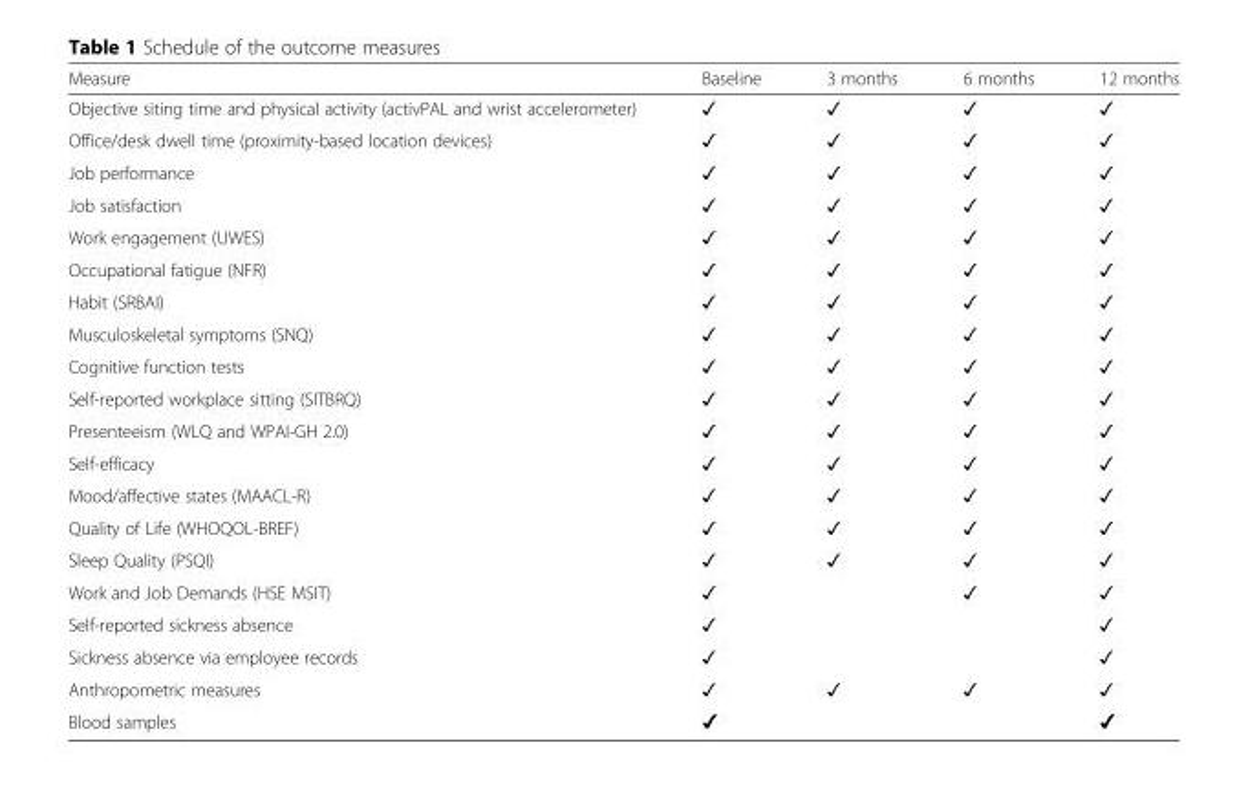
<table><thead><tr><td>Measure</td><td>Baseline</td><td>3 months</td><td>6 months</td><td>12 months</td></tr></thead><tbody><tr><td>Objective siting time and physical activity (activPAL and wrist accelerometer)</td><td>✓</td><td>✓</td><td>✓</td><td>✓</td></tr><tr><td>Office/desk dwell time (proximity-based location devices)</td><td>✓</td><td>✓</td><td>✓</td><td>✓</td></tr><tr><td>Job performance</td><td>✓</td><td>✓</td><td>✓</td><td>✓</td></tr><tr><td>Job satisfaction</td><td>✓</td><td>✓</td><td>✓</td><td>✓</td></tr><tr><td>Work engagement (UWES)</td><td>✓</td><td>✓</td><td>✓</td><td>✓</td></tr><tr><td>Occupational fatigue (NFR)</td><td>✓</td><td>✓</td><td>✓</td><td>✓</td></tr><tr><td>Habit (SRBAI)</td><td>✓</td><td>✓</td><td>✓</td><td>✓</td></tr><tr><td>Musculoskeletal symptoms (SNQ)</td><td>✓</td><td>✓</td><td>✓</td><td>✓</td></tr><tr><td>Cognitive function tests</td><td>✓</td><td>✓</td><td>✓</td><td>✓</td></tr><tr><td>Self-reported workplace sitting (SITBRQ)</td><td>✓</td><td>✓</td><td>✓</td><td>✓</td></tr><tr><td>Presenteeism (WLQ and WPAI-GH 2.0)</td><td>✓</td><td>✓</td><td>✓</td><td>✓</td></tr><tr><td>Self-efficacy</td><td>✓</td><td>✓</td><td>✓</td><td>✓</td></tr><tr><td>Mood/affective states (MAACL-R)</td><td>✓</td><td>✓</td><td>✓</td><td>✓</td></tr><tr><td>Quality of Life (WHOQOL-BREF)</td><td>✓</td><td>✓</td><td>✓</td><td>✓</td></tr><tr><td>Sleep Quality (PSQI)</td><td>✓</td><td>✓</td><td>✓</td><td>✓</td></tr><tr><td>Work and Job Demands (HSE MSIT)</td><td>✓</td><td></td><td>✓</td><td>✓</td></tr><tr><td>Self-reported sickness absence</td><td>✓</td><td></td><td></td><td>✓</td></tr><tr><td>Sickness absence via employee records</td><td>✓</td><td></td><td></td><td>✓</td></tr><tr><td>Anthropometric measures</td><td>✓</td><td>✓</td><td>✓</td><td>✓</td></tr><tr><td>Blood samples</td><td>✔</td><td></td><td></td><td>✔</td></tr></tbody></table>